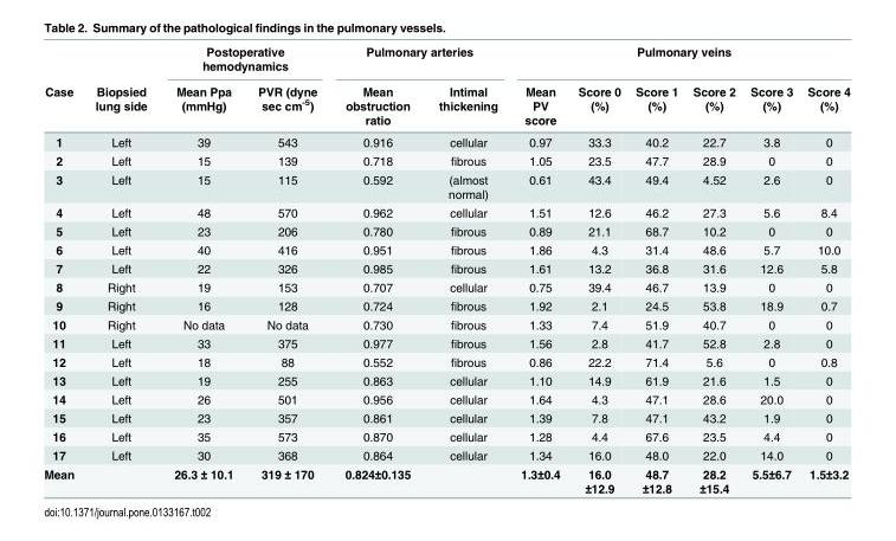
<table><thead><tr><td rowspan="2">Case</td><td rowspan="2">Biopsied lung side</td><td colspan="2">Postoperative hemodynamics</td><td colspan="2">Pulmonary arteries</td><td colspan="6">Pulmonary veins</td></tr><tr><td>Mean Ppa (mmHg)</td><td>PVR (dyne sec cm<sup>-5</sup>)</td><td>Mean obstruction ratio</td><td>Intimal thickening</td><td>Mean PV score</td><td>Score 0 (%)</td><td>Score 1 (%)</td><td>Score 2 (%)</td><td>Score 3 (%)</td><td>Score 4 (%)</td></tr></thead><tbody><tr><td>1</td><td>Left</td><td>39</td><td>543</td><td>0.916</td><td>cellular</td><td>0.97</td><td>33.3</td><td>40.2</td><td>22.7</td><td>3.8</td><td>0</td></tr><tr><td>2</td><td>Left</td><td>15</td><td>139</td><td>0.718</td><td>fibrous</td><td>1.05</td><td>23.5</td><td>47.7</td><td>28.9</td><td>0</td><td>0</td></tr><tr><td>3</td><td>Left</td><td>15</td><td>115</td><td>0.592</td><td>(almost normal)</td><td>0.61</td><td>43.4</td><td>49.4</td><td>4.52</td><td>2.6</td><td>0</td></tr><tr><td>4</td><td>Left</td><td>48</td><td>570</td><td>0.962</td><td>cellular</td><td>1.51</td><td>12.6</td><td>46.2</td><td>27.3</td><td>5.6</td><td>8.4</td></tr><tr><td>5</td><td>Left</td><td>23</td><td>206</td><td>0.780</td><td>fibrous</td><td>0.89</td><td>21.1</td><td>68.7</td><td>10.2</td><td>0</td><td>0</td></tr><tr><td>6</td><td>Left</td><td>40</td><td>416</td><td>0.951</td><td>fibrous</td><td>1.86</td><td>4.3</td><td>31.4</td><td>48.6</td><td>5.7</td><td>10.0</td></tr><tr><td>7</td><td>Left</td><td>22</td><td>326</td><td>0.985</td><td>fibrous</td><td>1.61</td><td>13.2</td><td>36.8</td><td>31.6</td><td>12.6</td><td>5.8</td></tr><tr><td>8</td><td>Right</td><td>19</td><td>153</td><td>0.707</td><td>cellular</td><td>0.75</td><td>39.4</td><td>46.7</td><td>13.9</td><td>0</td><td>0</td></tr><tr><td>9</td><td>Right</td><td>16</td><td>128</td><td>0.724</td><td>fibrous</td><td>1.92</td><td>2.1</td><td>24.5</td><td>53.8</td><td>18.9</td><td>0.7</td></tr><tr><td>10</td><td>Right</td><td>No data</td><td>No data</td><td>0.730</td><td>fibrous</td><td>1.33</td><td>7.4</td><td>51.9</td><td>40.7</td><td>0</td><td>0</td></tr><tr><td>11</td><td>Left</td><td>33</td><td>375</td><td>0.977</td><td>fibrous</td><td>1.56</td><td>2.8</td><td>41.7</td><td>52.8</td><td>2.8</td><td>0</td></tr><tr><td>12</td><td>Left</td><td>18</td><td>88</td><td>0.552</td><td>fibrous</td><td>0.86</td><td>22.2</td><td>71.4</td><td>5.6</td><td>0</td><td>0.8</td></tr><tr><td>13</td><td>Left</td><td>19</td><td>255</td><td>0.863</td><td>cellular</td><td>1.10</td><td>14.9</td><td>61.9</td><td>21.6</td><td>1.5</td><td>0</td></tr><tr><td>14</td><td>Left</td><td>26</td><td>501</td><td>0.956</td><td>cellular</td><td>1.64</td><td>4.3</td><td>47.1</td><td>28.6</td><td>20.0</td><td>0</td></tr><tr><td>15</td><td>Left</td><td>23</td><td>357</td><td>0.861</td><td>cellular</td><td>1.39</td><td>7.8</td><td>47.1</td><td>43.2</td><td>1.9</td><td>0</td></tr><tr><td>16</td><td>Left</td><td>35</td><td>573</td><td>0.870</td><td>cellular</td><td>1.28</td><td>4.4</td><td>67.6</td><td>23.5</td><td>4.4</td><td>0</td></tr><tr><td>17</td><td>Left</td><td>30</td><td>368</td><td>0.864</td><td>cellular</td><td>1.34</td><td>16.0</td><td>48.0</td><td>22.0</td><td>14.0</td><td>0</td></tr><tr><td>Mean</td><td></td><td>26.3 ± 10.1</td><td>319 ± 170</td><td>0.824±0.135</td><td></td><td>1.3±0.4</td><td>16.0 ±12.9</td><td>48.7 ±12.8</td><td>28.2 ±15.4</td><td>5.5±6.7</td><td>1.5±3.2</td></tr></tbody></table>